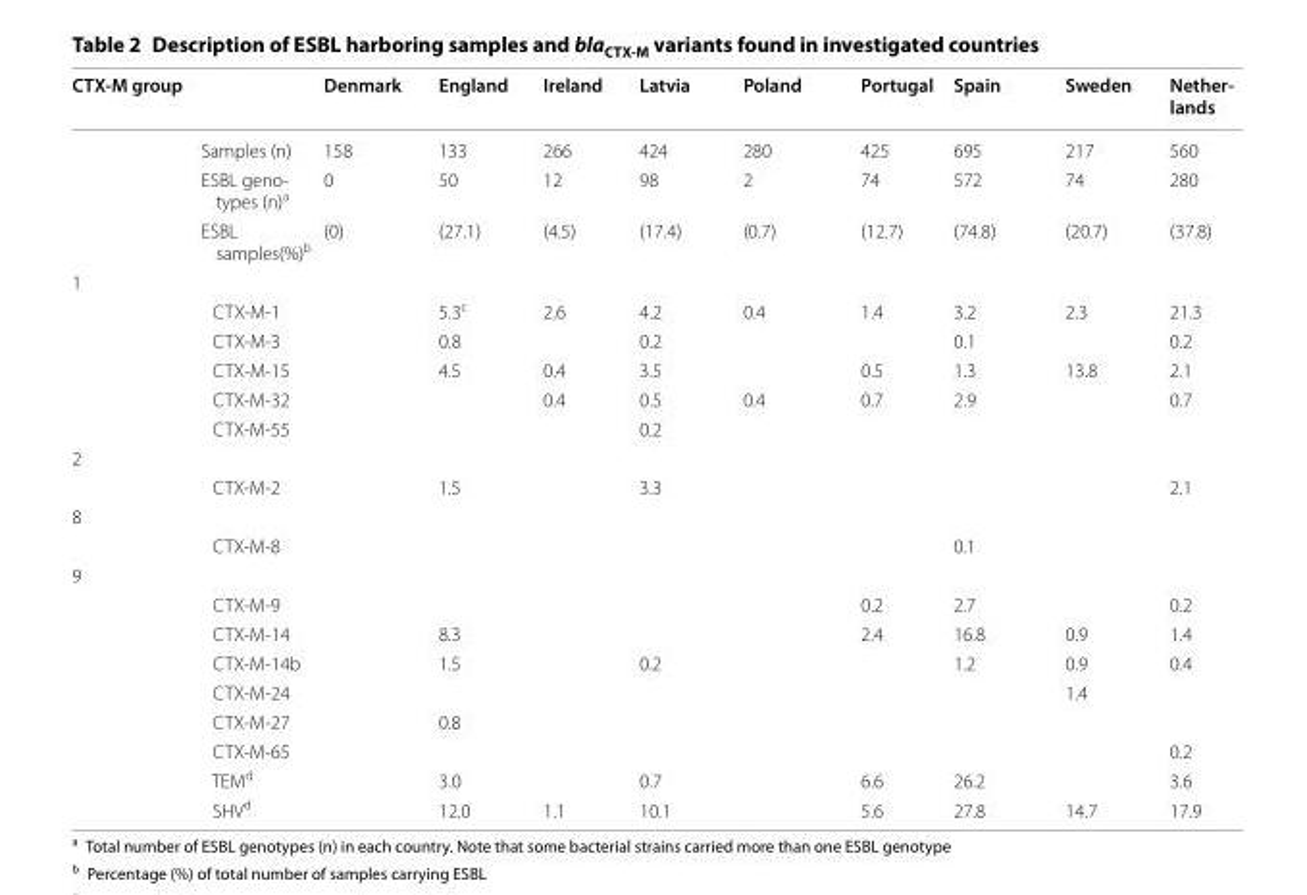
<table><thead><tr><td>CTX‑M group</td><td></td><td>Denmark</td><td>England</td><td>Ireland</td><td>Latvia</td><td>Poland</td><td>Portugal</td><td>Spain</td><td>Sweden</td><td>Nether‑ lands</td></tr></thead><tbody><tr><td></td><td>Samples (n)</td><td>158</td><td>133</td><td>266</td><td>424</td><td>280</td><td>425</td><td>695</td><td>217</td><td>560</td></tr><tr><td></td><td>ESBL geno- types (n)a</td><td>0</td><td>50</td><td>12</td><td>98</td><td>2</td><td>74</td><td>572</td><td>74</td><td>280</td></tr><tr><td></td><td>ESBL samples(%)<sup>b</sup></td><td>(0)</td><td>(27.1)</td><td>(4.5)</td><td>(17.4)</td><td>(0.7)</td><td>(12.7)</td><td>(74.8)</td><td>(20.7)</td><td>(37.8)</td></tr><tr><td colspan="11">1</td></tr><tr><td></td><td>CTX-M-1</td><td></td><td>5.3<sup>c</sup></td><td>2.6</td><td>4.2</td><td>0.4</td><td>1.4</td><td>3.2</td><td>2.3</td><td>21.3</td></tr><tr><td></td><td>CTX-M-3</td><td></td><td>0.8</td><td></td><td>0.2</td><td></td><td></td><td>0.1</td><td></td><td>0.2</td></tr><tr><td></td><td>CTX-M-15</td><td></td><td>4.5</td><td>0.4</td><td>3.5</td><td></td><td>0.5</td><td>1.3</td><td>13.8</td><td>2.1</td></tr><tr><td></td><td>CTX-M-32</td><td></td><td></td><td>0.4</td><td>0.5</td><td>0.4</td><td>0.7</td><td>2.9</td><td></td><td>0.7</td></tr><tr><td></td><td>CTX-M-55</td><td></td><td></td><td></td><td>0.2</td><td></td><td></td><td></td><td></td><td></td></tr><tr><td colspan="11">2</td></tr><tr><td></td><td>CTX-M-2</td><td></td><td>1.5</td><td></td><td>3.3</td><td></td><td></td><td></td><td></td><td>2.1</td></tr><tr><td colspan="11">8</td></tr><tr><td></td><td>CTX-M-8</td><td></td><td></td><td></td><td></td><td></td><td></td><td>0.1</td><td></td><td></td></tr><tr><td colspan="11">9</td></tr><tr><td></td><td>CTX-M-9</td><td></td><td></td><td></td><td></td><td></td><td>0.2</td><td>2.7</td><td></td><td>0.2</td></tr><tr><td></td><td>CTX-M-14</td><td></td><td>8.3</td><td></td><td></td><td></td><td>2.4</td><td>16.8</td><td>0.9</td><td>1.4</td></tr><tr><td></td><td>CTX-M-14b</td><td></td><td>1.5</td><td></td><td>0.2</td><td></td><td></td><td>1.2</td><td>0.9</td><td>0.4</td></tr><tr><td></td><td>CTX-M-24</td><td></td><td></td><td></td><td></td><td></td><td></td><td></td><td>1.4</td><td></td></tr><tr><td></td><td>CTX-M-27</td><td></td><td>0.8</td><td></td><td></td><td></td><td></td><td></td><td></td><td></td></tr><tr><td></td><td>CTX-M-65</td><td></td><td></td><td></td><td></td><td></td><td></td><td></td><td></td><td>0.2</td></tr><tr><td></td><td>TEM<sup>d</sup></td><td></td><td>3.0</td><td></td><td>0.7</td><td></td><td>6.6</td><td>26.2</td><td></td><td>3.6</td></tr><tr><td></td><td>SHV<sup>d</sup></td><td></td><td>12.0</td><td>1.1</td><td>10.1</td><td></td><td>5.6</td><td>27.8</td><td>14.7</td><td>17.9</td></tr></tbody></table>